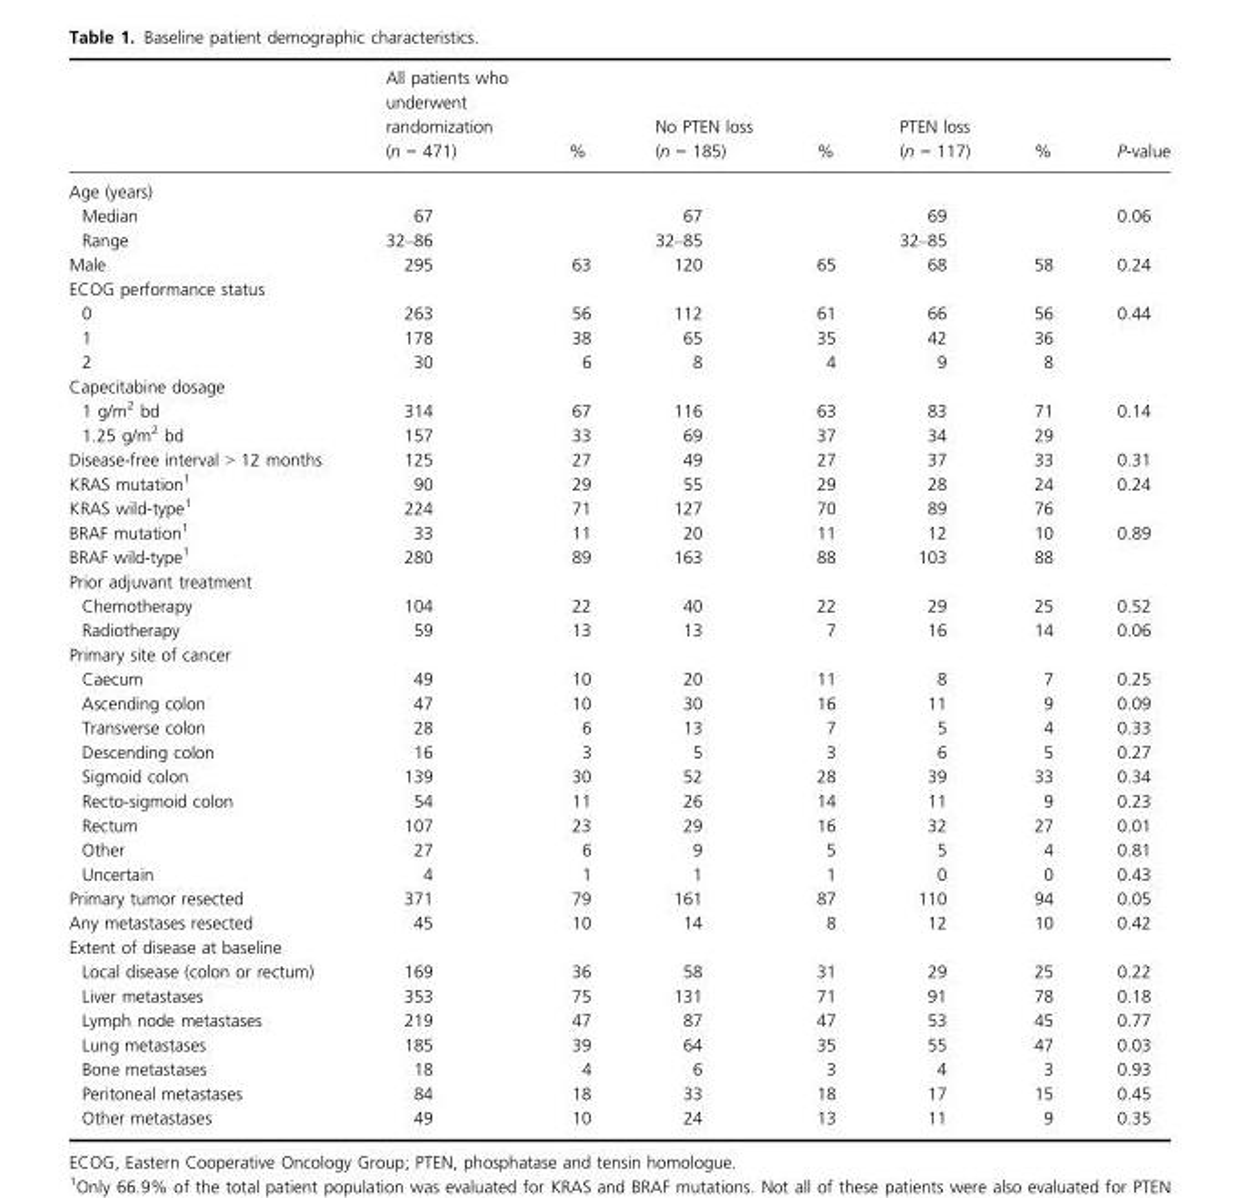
<table><thead><tr><td></td><td>All patients who underwent randomization (n = 471)</td><td>%</td><td>No PTEN loss (n = 185)</td><td>%</td><td>PTEN loss (n = 117)</td><td>%</td><td>P-value</td></tr></thead><tbody><tr><td colspan="8">Age (years)</td></tr><tr><td>Median</td><td>67</td><td></td><td>67</td><td></td><td>69</td><td></td><td>0.06</td></tr><tr><td>Range</td><td>32–86</td><td></td><td>32–85</td><td></td><td>32–85</td><td></td><td></td></tr><tr><td>Male</td><td>295</td><td>63</td><td>120</td><td>65</td><td>68</td><td>58</td><td>0.24</td></tr><tr><td colspan="8">ECOG performance status</td></tr><tr><td>0</td><td>263</td><td>56</td><td>112</td><td>61</td><td>66</td><td>56</td><td>0.44</td></tr><tr><td>1</td><td>178</td><td>38</td><td>65</td><td>35</td><td>42</td><td>36</td><td></td></tr><tr><td>2</td><td>30</td><td>6</td><td>8</td><td>4</td><td>9</td><td>8</td><td></td></tr><tr><td colspan="8">Capecitabine dosage</td></tr><tr><td>1 g/m<sup>2</sup> bd</td><td>314</td><td>67</td><td>116</td><td>63</td><td>83</td><td>71</td><td>0.14</td></tr><tr><td>1.25 g/m<sup>2</sup> bd</td><td>157</td><td>33</td><td>69</td><td>37</td><td>34</td><td>29</td><td></td></tr><tr><td>Disease-free interval &gt; 12 months</td><td>125</td><td>27</td><td>49</td><td>27</td><td>37</td><td>33</td><td>0.31</td></tr><tr><td>KRAS mutation<sup>1</sup></td><td>90</td><td>29</td><td>55</td><td>29</td><td>28</td><td>24</td><td>0.24</td></tr><tr><td>KRAS wild-type<sup>1</sup></td><td>224</td><td>71</td><td>127</td><td>70</td><td>89</td><td>76</td><td></td></tr><tr><td>BRAF mutation<sup>1</sup></td><td>33</td><td>11</td><td>20</td><td>11</td><td>12</td><td>10</td><td>0.89</td></tr><tr><td>BRAF wild-type<sup>1</sup></td><td>280</td><td>89</td><td>163</td><td>88</td><td>103</td><td>88</td><td></td></tr><tr><td colspan="8">Prior adjuvant treatment</td></tr><tr><td>Chemotherapy</td><td>104</td><td>22</td><td>40</td><td>22</td><td>29</td><td>25</td><td>0.52</td></tr><tr><td>Radiotherapy</td><td>59</td><td>13</td><td>13</td><td>7</td><td>16</td><td>14</td><td>0.06</td></tr><tr><td colspan="8">Primary site of cancer</td></tr><tr><td>Caecum</td><td>49</td><td>10</td><td>20</td><td>11</td><td>8</td><td>7</td><td>0.25</td></tr><tr><td>Ascending colon</td><td>47</td><td>10</td><td>30</td><td>16</td><td>11</td><td>9</td><td>0.09</td></tr><tr><td>Transverse colon</td><td>28</td><td>6</td><td>13</td><td>7</td><td>5</td><td>4</td><td>0.33</td></tr><tr><td>Descending colon</td><td>16</td><td>3</td><td>5</td><td>3</td><td>6</td><td>5</td><td>0.27</td></tr><tr><td>Sigmoid colon</td><td>139</td><td>30</td><td>52</td><td>28</td><td>39</td><td>33</td><td>0.34</td></tr><tr><td>Recto-sigmoid colon</td><td>54</td><td>11</td><td>26</td><td>14</td><td>11</td><td>9</td><td>0.23</td></tr><tr><td>Rectum</td><td>107</td><td>23</td><td>29</td><td>16</td><td>32</td><td>27</td><td>0.01</td></tr><tr><td>Other</td><td>27</td><td>6</td><td>9</td><td>5</td><td>5</td><td>4</td><td>0.81</td></tr><tr><td>Uncertain</td><td>4</td><td>1</td><td>1</td><td>1</td><td>0</td><td>0</td><td>0.43</td></tr><tr><td>Primary tumor resected</td><td>371</td><td>79</td><td>161</td><td>87</td><td>110</td><td>94</td><td>0.05</td></tr><tr><td>Any metastases resected</td><td>45</td><td>10</td><td>14</td><td>8</td><td>12</td><td>10</td><td>0.42</td></tr><tr><td colspan="8">Extent of disease at baseline</td></tr><tr><td>Local disease (colon or rectum)</td><td>169</td><td>36</td><td>58</td><td>31</td><td>29</td><td>25</td><td>0.22</td></tr><tr><td>Liver metastases</td><td>353</td><td>75</td><td>131</td><td>71</td><td>91</td><td>78</td><td>0.18</td></tr><tr><td>Lymph node metastases</td><td>219</td><td>47</td><td>87</td><td>47</td><td>53</td><td>45</td><td>0.77</td></tr><tr><td>Lung metastases</td><td>185</td><td>39</td><td>64</td><td>35</td><td>55</td><td>47</td><td>0.03</td></tr><tr><td>Bone metastases</td><td>18</td><td>4</td><td>6</td><td>3</td><td>4</td><td>3</td><td>0.93</td></tr><tr><td>Peritoneal metastases</td><td>84</td><td>18</td><td>33</td><td>18</td><td>17</td><td>15</td><td>0.45</td></tr><tr><td>Other metastases</td><td>49</td><td>10</td><td>24</td><td>13</td><td>11</td><td>9</td><td>0.35</td></tr></tbody></table>